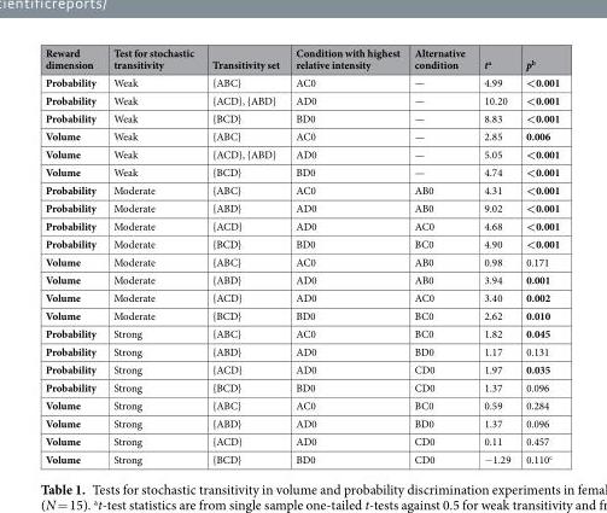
<table><thead><tr><td>Reward dimension</td><td>Test for stochastic transitivity</td><td>Transitivity set</td><td>Condition with highest relative intensity</td><td>Alternative condition</td><td>t<sup>a</sup></td><td>p<sup>b</sup></td></tr></thead><tbody><tr><td>Probability</td><td>Weak</td><td>{ABC}</td><td>AC0</td><td>—</td><td>4.99</td><td>&lt;0.001</td></tr><tr><td>Probability</td><td>Weak</td><td>{ACD}, {ABD}</td><td>AD0</td><td>—</td><td>10.20</td><td>&lt;0.001</td></tr><tr><td>Probability</td><td>Weak</td><td>{BCD}</td><td>BD0</td><td>—</td><td>8.83</td><td>&lt;0.001</td></tr><tr><td>Volume</td><td>Weak</td><td>{ABC}</td><td>AC0</td><td>—</td><td>2.85</td><td>0.006</td></tr><tr><td>Volume</td><td>Weak</td><td>{ACD}, {ABD}</td><td>AD0</td><td>—</td><td>5.05</td><td>&lt;0.001</td></tr><tr><td>Volume</td><td>Weak</td><td>{BCD}</td><td>BD0</td><td>—</td><td>4.74</td><td>&lt;0.001</td></tr><tr><td>Probability</td><td>Moderate</td><td>{ABC}</td><td>AC0</td><td>AB0</td><td>4.31</td><td>&lt;0.001</td></tr><tr><td>Probability</td><td>Moderate</td><td>{ABD}</td><td>AD0</td><td>AB0</td><td>9.02</td><td>&lt;0.001</td></tr><tr><td>Probability</td><td>Moderate</td><td>{ACD}</td><td>AD0</td><td>AC0</td><td>4.68</td><td>&lt;0.001</td></tr><tr><td>Probability</td><td>Moderate</td><td>{BCD}</td><td>BD0</td><td>BC0</td><td>4.90</td><td>&lt;0.001</td></tr><tr><td>Volume</td><td>Moderate</td><td>{ABC}</td><td>AC0</td><td>AB0</td><td>0.98</td><td>0.171</td></tr><tr><td>Volume</td><td>Moderate</td><td>{ABD}</td><td>AD0</td><td>AB0</td><td>3.94</td><td>0.001</td></tr><tr><td>Volume</td><td>Moderate</td><td>{ACD}</td><td>AD0</td><td>AC0</td><td>3.40</td><td>0.002</td></tr><tr><td>Volume</td><td>Moderate</td><td>{BCD}</td><td>BD0</td><td>BC0</td><td>2.62</td><td>0.010</td></tr><tr><td>Probability</td><td>Strong</td><td>{ABC}</td><td>AC0</td><td>BC0</td><td>1.82</td><td>0.045</td></tr><tr><td>Probability</td><td>Strong</td><td>{ABD}</td><td>AD0</td><td>BD0</td><td>1.17</td><td>0.131</td></tr><tr><td>Probability</td><td>Strong</td><td>{ACD}</td><td>AD0</td><td>CD0</td><td>1.97</td><td>0.035</td></tr><tr><td>Probability</td><td>Strong</td><td>{BCD}</td><td>BD0</td><td>CD0</td><td>1.37</td><td>0.096</td></tr><tr><td>Volume</td><td>Strong</td><td>{ABC}</td><td>AC0</td><td>BC0</td><td>0.59</td><td>0.284</td></tr><tr><td>Volume</td><td>Strong</td><td>{ABD}</td><td>AD0</td><td>BD0</td><td>1.37</td><td>0.096</td></tr><tr><td>Volume</td><td>Strong</td><td>{ACD}</td><td>AD0</td><td>CD0</td><td>0.11</td><td>0.457</td></tr><tr><td>Volume</td><td>Strong</td><td>{BCD}</td><td>BD0</td><td>CD0</td><td>−1.29</td><td>0.110<sup>c</sup></td></tr></tbody></table>